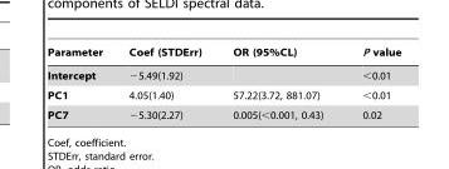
<table><thead><tr><td>Parameter</td><td>Coef (STDErr)</td><td>OR (95%CL)</td><td>P value</td></tr></thead><tbody><tr><td>Intercept</td><td>−5.49(1.92)</td><td></td><td>&lt;0.01</td></tr><tr><td>PC1</td><td>4.05(1.40)</td><td>57.22(3.72, 881.07)</td><td>&lt;0.01</td></tr><tr><td>PC7</td><td>−5.30(2.27)</td><td>0.005(&lt;0.001, 0.43)</td><td>0.02</td></tr></tbody></table>